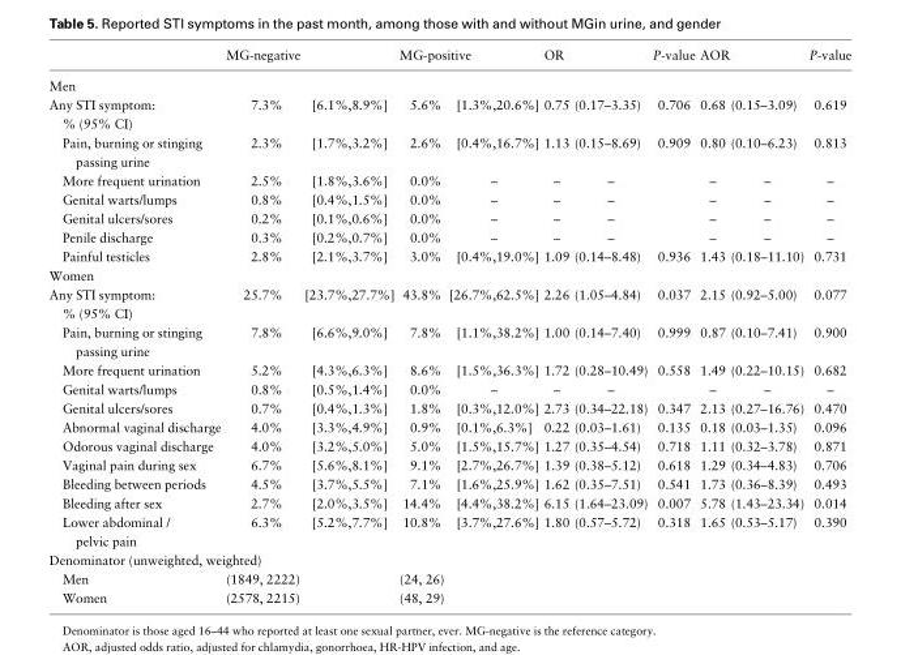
<table><thead><tr><td rowspan="2">Men</td><td colspan="2">MG-negative</td><td colspan="2">MG-positive</td><td colspan="2">OR</td><td rowspan="2">P-value</td><td colspan="2">AOR</td><td rowspan="2">P-value</td></tr><tr><td></td><td></td><td></td><td></td><td></td><td></td><td></td><td></td></tr></thead><tbody><tr><td>Any STI symptom: % (95% CI)</td><td>7.3%</td><td>[6.1%,8.9%]</td><td>5.6%</td><td>[1.3%,20.6%]</td><td>0.75</td><td>(0.17–3.35)</td><td>0.706</td><td>0.68</td><td>(0.15–3.09)</td><td>0.619</td></tr><tr><td>Pain, burning or stinging passing urine</td><td>2.3%</td><td>[1.7%,3.2%]</td><td>2.6%</td><td>[0.4%,16.7%]</td><td>1.13</td><td>(0.15–8.69)</td><td>0.909</td><td>0.80</td><td>(0.10–6.23)</td><td>0.813</td></tr><tr><td>More frequent urination</td><td>2.5%</td><td>[1.8%,3.6%]</td><td>0.0%</td><td>–</td><td>–</td><td>–</td><td></td><td>–</td><td>–</td><td>–</td></tr><tr><td>Genital warts/lumps</td><td>0.8%</td><td>[0.4%,1.5%]</td><td>0.0%</td><td>–</td><td>–</td><td>–</td><td></td><td>–</td><td>–</td><td>–</td></tr><tr><td>Genital ulcers/sores</td><td>0.2%</td><td>[0.1%,0.6%]</td><td>0.0%</td><td>–</td><td>–</td><td>–</td><td></td><td>–</td><td>–</td><td>–</td></tr><tr><td>Penile discharge</td><td>0.3%</td><td>[0.2%,0.7%]</td><td>0.0%</td><td>–</td><td>–</td><td>–</td><td></td><td>–</td><td>–</td><td>–</td></tr><tr><td>Painful testicles</td><td>2.8%</td><td>[2.1%,3.7%]</td><td>3.0%</td><td>[0.4%,19.0%]</td><td>1.09</td><td>(0.14–8.48)</td><td>0.936</td><td>1.43</td><td>(0.18–11.10)</td><td>0.731</td></tr><tr><td colspan="11">Women</td></tr><tr><td>Any STI symptom: % (95% CI)</td><td>25.7%</td><td>[23.7%,27.7%]</td><td>43.8%</td><td>[26.7%,62.5%]</td><td>2.26</td><td>(1.05–4.84)</td><td>0.037</td><td>2.15</td><td>(0.92–5.00)</td><td>0.077</td></tr><tr><td>Pain, burning or stinging passing urine</td><td>7.8%</td><td>[6.6%,9.0%]</td><td>7.8%</td><td>[1.1%,38.2%]</td><td>1.00</td><td>(0.14–7.40)</td><td>0.999</td><td>0.87</td><td>(0.10–7.41)</td><td>0.900</td></tr><tr><td>More frequent urination</td><td>5.2%</td><td>[4.3%,6.3%]</td><td>8.6%</td><td>[1.5%,36.3%]</td><td>1.72</td><td>(0.28–10.49)</td><td>0.558</td><td>1.49</td><td>(0.22–10.15)</td><td>0.682</td></tr><tr><td>Genital warts/lumps</td><td>0.8%</td><td>[0.5%,1.4%]</td><td>0.0%</td><td>–</td><td>–</td><td>–</td><td></td><td>–</td><td>–</td><td>–</td></tr><tr><td>Genital ulcers/sores</td><td>0.7%</td><td>[0.4%,1.3%]</td><td>1.8%</td><td>[0.3%,12.0%]</td><td>2.73</td><td>(0.34–22.18)</td><td>0.347</td><td>2.13</td><td>(0.27–16.76)</td><td>0.470</td></tr><tr><td>Abnormal vaginal discharge</td><td>4.0%</td><td>[3.3%,4.9%]</td><td>0.9%</td><td>[0.1%,6.3%]</td><td>0.22</td><td>(0.03–1.61)</td><td>0.135</td><td>0.18</td><td>(0.03–1.35)</td><td>0.096</td></tr><tr><td>Odorous vaginal discharge</td><td>4.0%</td><td>[3.2%,5.0%]</td><td>5.0%</td><td>[1.5%,15.7%]</td><td>1.27</td><td>(0.35–4.54)</td><td>0.718</td><td>1.11</td><td>(0.32–3.78)</td><td>0.871</td></tr><tr><td>Vaginal pain during sex</td><td>6.7%</td><td>[5.6%,8.1%]</td><td>9.1%</td><td>[2.7%,26.7%]</td><td>1.39</td><td>(0.38–5.12)</td><td>0.618</td><td>1.29</td><td>(0.34–4.83)</td><td>0.706</td></tr><tr><td>Bleeding between periods</td><td>4.5%</td><td>[3.7%,5.5%]</td><td>7.1%</td><td>[1.6%,25.9%]</td><td>1.62</td><td>(0.35–7.51)</td><td>0.541</td><td>1.73</td><td>(0.36–8.39)</td><td>0.493</td></tr><tr><td>Bleeding after sex</td><td>2.7%</td><td>[2.0%,3.5%]</td><td>14.4%</td><td>[4.4%,38.2%]</td><td>6.15</td><td>(1.64–23.09)</td><td>0.007</td><td>5.78</td><td>(1.43–23.34)</td><td>0.014</td></tr><tr><td>Lower abdominal / pelvic pain</td><td>6.3%</td><td>[5.2%,7.7%]</td><td>10.8%</td><td>[3.7%,27.6%]</td><td>1.80</td><td>(0.57–5.72)</td><td>0.318</td><td>1.65</td><td>(0.53–5.17)</td><td>0.390</td></tr><tr><td colspan="11">Denominator (unweighted, weighted)</td></tr><tr><td>Men</td><td>(1849, 2222)</td><td></td><td>(24, 26)</td><td></td><td></td><td></td><td></td><td></td><td></td><td></td></tr><tr><td>Women</td><td>(2578, 2215)</td><td></td><td>(48, 29)</td><td></td><td></td><td></td><td></td><td></td><td></td><td></td></tr></tbody></table>